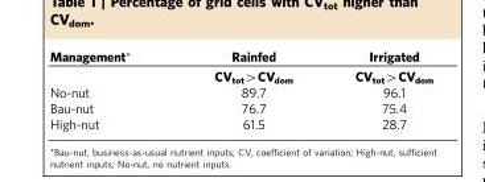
<table><thead><tr><td>Management*</td><td>Rainfed</td><td>Irrigated</td></tr></thead><tbody><tr><td></td><td>CV<sub>tot</sub>&gt;CV<sub>dom</sub></td><td>CV<sub>tot</sub>&gt;CV<sub>dom</sub></td></tr><tr><td>No-nut</td><td>89.7</td><td>96.1</td></tr><tr><td>Bau-nut</td><td>76.7</td><td>75.4</td></tr><tr><td>High-nut</td><td>61.5</td><td>28.7</td></tr></tbody></table>